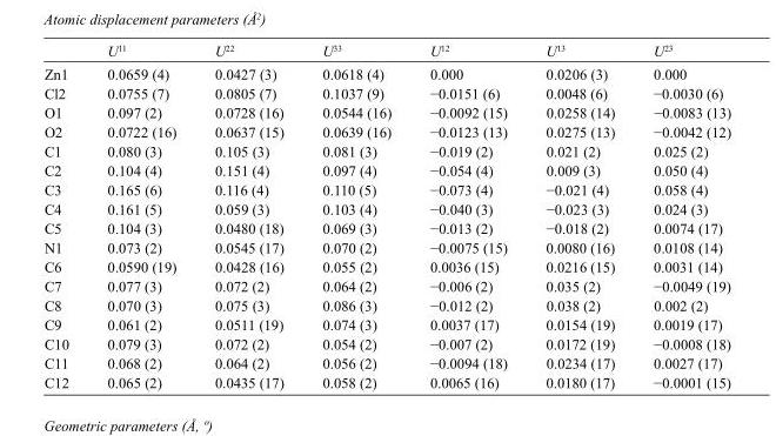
<table><thead><tr><td></td><td>U<sup>11</sup></td><td>U<sup>22</sup></td><td>U<sup>33</sup></td><td>U<sup>12</sup></td><td>U<sup>13</sup></td><td>U<sup>23</sup></td></tr></thead><tbody><tr><td>Zn1</td><td>0.0659 (4)</td><td>0.0427 (3)</td><td>0.0618 (4)</td><td>0.000</td><td>0.0206 (3)</td><td>0.000</td></tr><tr><td>Cl2</td><td>0.0755 (7)</td><td>0.0805 (7)</td><td>0.1037 (9)</td><td>−0.0151 (6)</td><td>0.0048 (6)</td><td>−0.0030 (6)</td></tr><tr><td>O1</td><td>0.097 (2)</td><td>0.0728 (16)</td><td>0.0544 (16)</td><td>−0.0092 (15)</td><td>0.0258 (14)</td><td>−0.0083 (13)</td></tr><tr><td>O2</td><td>0.0722 (16)</td><td>0.0637 (15)</td><td>0.0639 (16)</td><td>−0.0123 (13)</td><td>0.0275 (13)</td><td>−0.0042 (12)</td></tr><tr><td>C1</td><td>0.080 (3)</td><td>0.105 (3)</td><td>0.081 (3)</td><td>−0.019 (2)</td><td>0.021 (2)</td><td>0.025 (2)</td></tr><tr><td>C2</td><td>0.104 (4)</td><td>0.151 (4)</td><td>0.097 (4)</td><td>−0.054 (4)</td><td>0.009 (3)</td><td>0.050 (4)</td></tr><tr><td>C3</td><td>0.165 (6)</td><td>0.116 (4)</td><td>0.110 (5)</td><td>−0.073 (4)</td><td>−0.021 (4)</td><td>0.058 (4)</td></tr><tr><td>C4</td><td>0.161 (5)</td><td>0.059 (3)</td><td>0.103 (4)</td><td>−0.040 (3)</td><td>−0.023 (3)</td><td>0.024 (3)</td></tr><tr><td>C5</td><td>0.104 (3)</td><td>0.0480 (18)</td><td>0.069 (3)</td><td>−0.013 (2)</td><td>−0.018 (2)</td><td>0.0074 (17)</td></tr><tr><td>N1</td><td>0.073 (2)</td><td>0.0545 (17)</td><td>0.070 (2)</td><td>−0.0075 (15)</td><td>0.0080 (16)</td><td>0.0108 (14)</td></tr><tr><td>C6</td><td>0.0590 (19)</td><td>0.0428 (16)</td><td>0.055 (2)</td><td>0.0036 (15)</td><td>0.0216 (15)</td><td>0.0031 (14)</td></tr><tr><td>C7</td><td>0.077 (3)</td><td>0.072 (2)</td><td>0.064 (2)</td><td>−0.006 (2)</td><td>0.035 (2)</td><td>−0.0049 (19)</td></tr><tr><td>C8</td><td>0.070 (3)</td><td>0.075 (3)</td><td>0.086 (3)</td><td>−0.012 (2)</td><td>0.038 (2)</td><td>0.002 (2)</td></tr><tr><td>C9</td><td>0.061 (2)</td><td>0.0511 (19)</td><td>0.074 (3)</td><td>0.0037 (17)</td><td>0.0154 (19)</td><td>0.0019 (17)</td></tr><tr><td>C10</td><td>0.079 (3)</td><td>0.072 (2)</td><td>0.054 (2)</td><td>−0.007 (2)</td><td>0.0172 (19)</td><td>−0.0008 (18)</td></tr><tr><td>C11</td><td>0.068 (2)</td><td>0.064 (2)</td><td>0.056 (2)</td><td>−0.0094 (18)</td><td>0.0234 (17)</td><td>0.0027 (17)</td></tr><tr><td>C12</td><td>0.065 (2)</td><td>0.0435 (17)</td><td>0.058 (2)</td><td>0.0065 (16)</td><td>0.0180 (17)</td><td>−0.0001 (15)</td></tr></tbody></table>